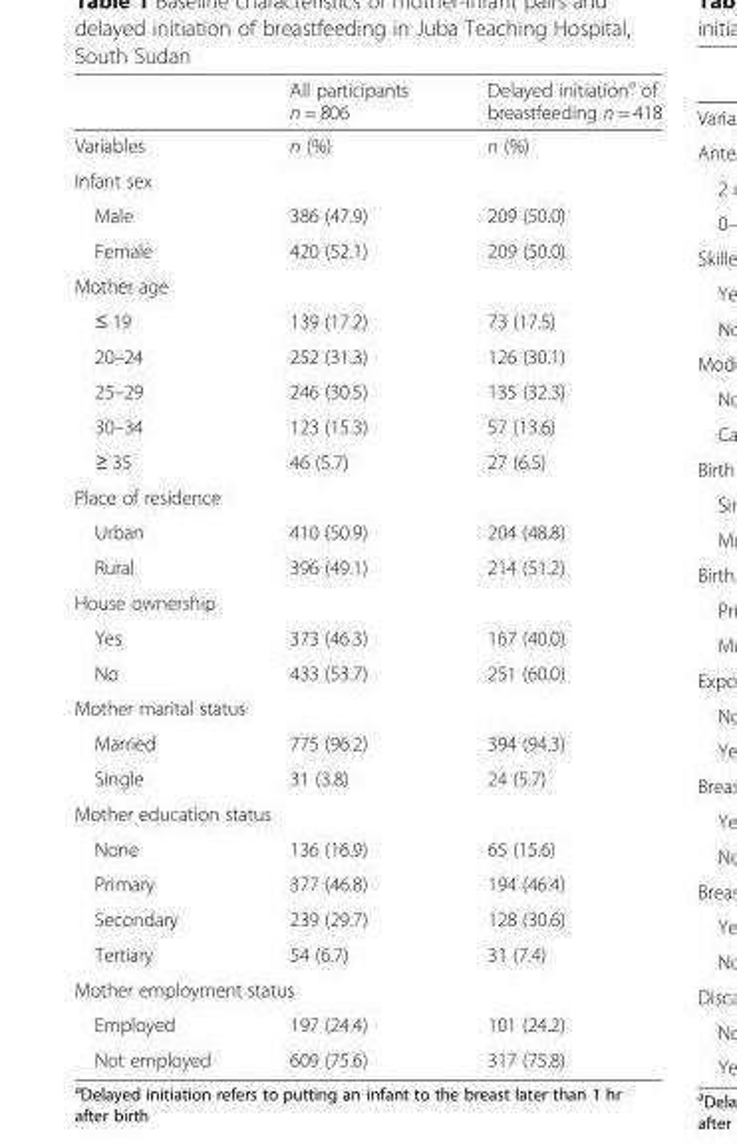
<table><thead><tr><td></td><td>All participants n = 806</td><td>Delayed initiation<sup>a</sup> of breastfeeding n = 418</td></tr></thead><tbody><tr><td>Variables</td><td>n (%)</td><td>n (%)</td></tr><tr><td colspan="3">Infant sex</td></tr><tr><td>Male</td><td>386 (47.9)</td><td>209 (50.0)</td></tr><tr><td>Female</td><td>420 (52.1)</td><td>209 (50.0)</td></tr><tr><td colspan="3">Mother age</td></tr><tr><td>≤ 19</td><td>139 (17.2)</td><td>73 (17.5)</td></tr><tr><td>20–24</td><td>252 (31.3)</td><td>126 (30.1)</td></tr><tr><td>25–29</td><td>246 (30.5)</td><td>135 (32.3)</td></tr><tr><td>30–34</td><td>123 (15.3)</td><td>57 (13.6)</td></tr><tr><td>≥ 35</td><td>46 (5.7)</td><td>27 (6.5)</td></tr><tr><td colspan="3">Place of residence</td></tr><tr><td>Urban</td><td>410 (50.9)</td><td>204 (48.8)</td></tr><tr><td>Rural</td><td>396 (49.1)</td><td>214 (51.2)</td></tr><tr><td colspan="3">House ownership</td></tr><tr><td>Yes</td><td>373 (46.3)</td><td>167 (40.0)</td></tr><tr><td>No</td><td>433 (53.7)</td><td>251 (60.0)</td></tr><tr><td colspan="3">Mother marital status</td></tr><tr><td>Married</td><td>775 (96.2)</td><td>394 (94.3)</td></tr><tr><td>Single</td><td>31 (3.8)</td><td>24 (5.7)</td></tr><tr><td colspan="3">Mother education status</td></tr><tr><td>None</td><td>136 (16.9)</td><td>65 (15.6)</td></tr><tr><td>Primary</td><td>377 (46.8)</td><td>194 (46.4)</td></tr><tr><td>Secondary</td><td>239 (29.7)</td><td>128 (30.6)</td></tr><tr><td>Tertiary</td><td>54 (6.7)</td><td>31 (7.4)</td></tr><tr><td colspan="3">Mother employment status</td></tr><tr><td>Employed</td><td>197 (24.4)</td><td>101 (24.2)</td></tr><tr><td>Not employed</td><td>609 (75.6)</td><td>317 (75.8)</td></tr></tbody></table>